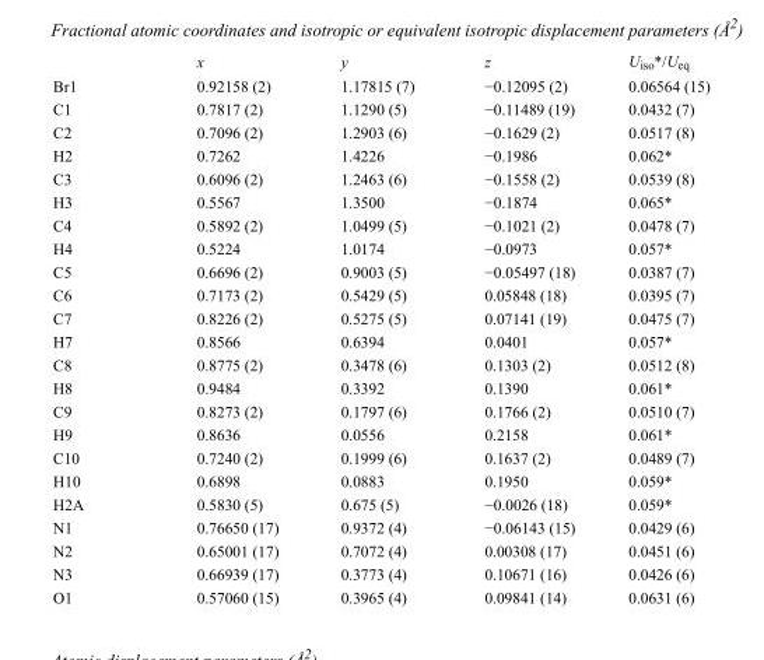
<table><thead><tr><td></td><td>x</td><td>y</td><td>z</td><td>U<sub>iso</sub>*/U<sub>eq</sub></td></tr></thead><tbody><tr><td>Br1</td><td>0.92158 (2)</td><td>1.17815 (7)</td><td>−0.12095 (2)</td><td>0.06564 (15)</td></tr><tr><td>C1</td><td>0.7817 (2)</td><td>1.1290 (5)</td><td>−0.11489 (19)</td><td>0.0432 (7)</td></tr><tr><td>C2</td><td>0.7096 (2)</td><td>1.2903 (6)</td><td>−0.1629 (2)</td><td>0.0517 (8)</td></tr><tr><td>H2</td><td>0.7262</td><td>1.4226</td><td>−0.1986</td><td>0.062*</td></tr><tr><td>C3</td><td>0.6096 (2)</td><td>1.2463 (6)</td><td>−0.1558 (2)</td><td>0.0539 (8)</td></tr><tr><td>H3</td><td>0.5567</td><td>1.3500</td><td>−0.1874</td><td>0.065*</td></tr><tr><td>C4</td><td>0.5892 (2)</td><td>1.0499 (5)</td><td>−0.1021 (2)</td><td>0.0478 (7)</td></tr><tr><td>H4</td><td>0.5224</td><td>1.0174</td><td>−0.0973</td><td>0.057*</td></tr><tr><td>C5</td><td>0.6696 (2)</td><td>0.9003 (5)</td><td>−0.05497 (18)</td><td>0.0387 (7)</td></tr><tr><td>C6</td><td>0.7173 (2)</td><td>0.5429 (5)</td><td>0.05848 (18)</td><td>0.0395 (7)</td></tr><tr><td>C7</td><td>0.8226 (2)</td><td>0.5275 (5)</td><td>0.07141 (19)</td><td>0.0475 (7)</td></tr><tr><td>H7</td><td>0.8566</td><td>0.6394</td><td>0.0401</td><td>0.057*</td></tr><tr><td>C8</td><td>0.8775 (2)</td><td>0.3478 (6)</td><td>0.1303 (2)</td><td>0.0512 (8)</td></tr><tr><td>H8</td><td>0.9484</td><td>0.3392</td><td>0.1390</td><td>0.061*</td></tr><tr><td>C9</td><td>0.8273 (2)</td><td>0.1797 (6)</td><td>0.1766 (2)</td><td>0.0510 (7)</td></tr><tr><td>H9</td><td>0.8636</td><td>0.0556</td><td>0.2158</td><td>0.061*</td></tr><tr><td>C10</td><td>0.7240 (2)</td><td>0.1999 (6)</td><td>0.1637 (2)</td><td>0.0489 (7)</td></tr><tr><td>H10</td><td>0.6898</td><td>0.0883</td><td>0.1950</td><td>0.059*</td></tr><tr><td>H2A</td><td>0.5830 (5)</td><td>0.675 (5)</td><td>−0.0026 (18)</td><td>0.059*</td></tr><tr><td>N1</td><td>0.76650 (17)</td><td>0.9372 (4)</td><td>−0.06143 (15)</td><td>0.0429 (6)</td></tr><tr><td>N2</td><td>0.65001 (17)</td><td>0.7072 (4)</td><td>0.00308 (17)</td><td>0.0451 (6)</td></tr><tr><td>N3</td><td>0.66939 (17)</td><td>0.3773 (4)</td><td>0.10671 (16)</td><td>0.0426 (6)</td></tr><tr><td>O1</td><td>0.57060 (15)</td><td>0.3965 (4)</td><td>0.09841 (14)</td><td>0.0631 (6)</td></tr></tbody></table>